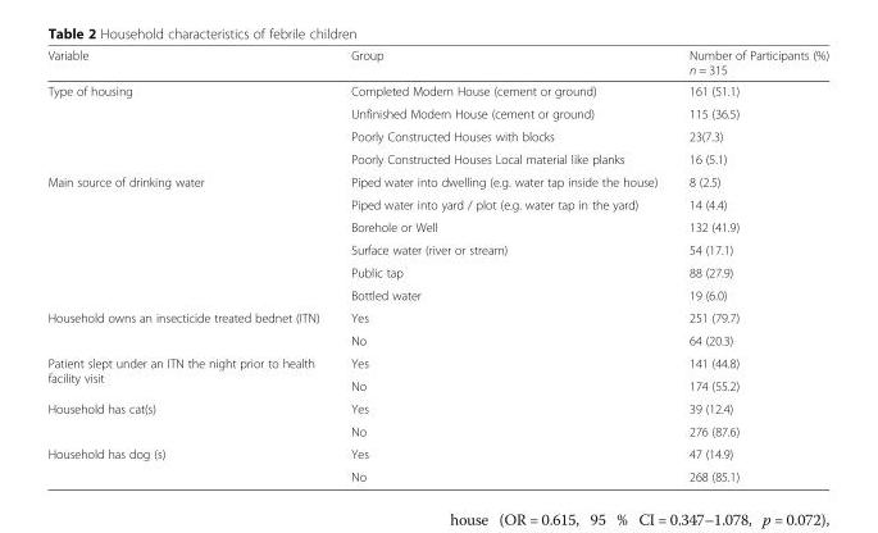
<table><thead><tr><td>Variable</td><td>Group</td><td>Number of Participants (%) n = 315</td></tr></thead><tbody><tr><td rowspan="4">Type of housing</td><td>Completed Modern House (cement or ground)</td><td>161 (51.1)</td></tr><tr><td>Unfinished Modern House (cement or ground)</td><td>115 (36.5)</td></tr><tr><td>Poorly Constructed Houses with blocks</td><td>23(7.3)</td></tr><tr><td>Poorly Constructed Houses Local material like planks</td><td>16 (5.1)</td></tr><tr><td rowspan="6">Main source of drinking water</td><td>Piped water into dwelling (e.g. water tap inside the house)</td><td>8 (2.5)</td></tr><tr><td>Piped water into yard / plot (e.g. water tap in the yard)</td><td>14 (4.4)</td></tr><tr><td>Borehole or Well</td><td>132 (41.9)</td></tr><tr><td>Surface water (river or stream)</td><td>54 (17.1)</td></tr><tr><td>Public tap</td><td>88 (27.9)</td></tr><tr><td>Bottled water</td><td>19 (6.0)</td></tr><tr><td rowspan="2">Household owns an insecticide treated bednet (ITN)</td><td>Yes</td><td>251 (79.7)</td></tr><tr><td>No</td><td>64 (20.3)</td></tr><tr><td rowspan="2">Patient slept under an ITN the night prior to health facility visit</td><td>Yes</td><td>141 (44.8)</td></tr><tr><td>No</td><td>174 (55.2)</td></tr><tr><td rowspan="2">Household has cat(s)</td><td>Yes</td><td>39 (12.4)</td></tr><tr><td>No</td><td>276 (87.6)</td></tr><tr><td rowspan="2">Household has dog (s)</td><td>Yes</td><td>47 (14.9)</td></tr><tr><td>No</td><td>268 (85.1)</td></tr></tbody></table>